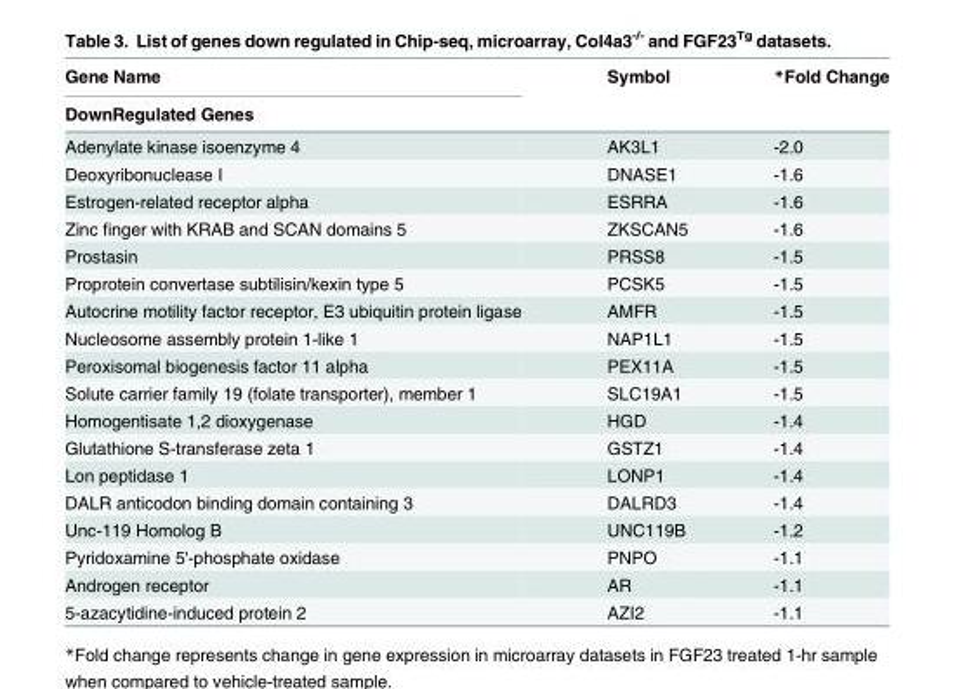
<table><thead><tr><td rowspan="2">Gene Name DownRegulated Genes</td><td rowspan="2">Symbol</td><td rowspan="2">*Fold Change</td></tr><tr></tr></thead><tbody><tr><td>Adenylate kinase isoenzyme 4</td><td>AK3L1</td><td>-2.0</td></tr><tr><td>Deoxyribonuclease I</td><td>DNASE1</td><td>-1.6</td></tr><tr><td>Estrogen-related receptor alpha</td><td>ESRRA</td><td>-1.6</td></tr><tr><td>Zinc finger with KRAB and SCAN domains 5</td><td>ZKSCAN5</td><td>-1.6</td></tr><tr><td>Prostasin</td><td>PRSS8</td><td>-1.5</td></tr><tr><td>Proprotein convertase subtilisin/kexin type 5</td><td>PCSK5</td><td>-1.5</td></tr><tr><td>Autocrine motility factor receptor, E3 ubiquitin protein ligase</td><td>AMFR</td><td>-1.5</td></tr><tr><td>Nucleosome assembly protein 1-like 1</td><td>NAP1L1</td><td>-1.5</td></tr><tr><td>Peroxisomal biogenesis factor 11 alpha</td><td>PEX11A</td><td>-1.5</td></tr><tr><td>Solute carrier family 19 (folate transporter), member 1</td><td>SLC19A1</td><td>-1.5</td></tr><tr><td>Homogentisate 1,2 dioxygenase</td><td>HGD</td><td>-1.4</td></tr><tr><td>Glutathione S-transferase zeta 1</td><td>GSTZ1</td><td>-1.4</td></tr><tr><td>Lon peptidase 1</td><td>LONP1</td><td>-1.4</td></tr><tr><td>DALR anticodon binding domain containing 3</td><td>DALRD3</td><td>-1.4</td></tr><tr><td>Unc-119 Homolog B</td><td>UNC119B</td><td>-1.2</td></tr><tr><td>Pyridoxamine 5&#x27;-phosphate oxidase</td><td>PNPO</td><td>-1.1</td></tr><tr><td>Androgen receptor</td><td>AR</td><td>-1.1</td></tr><tr><td>5-azacytidine-induced protein 2</td><td>AZI2</td><td>-1.1</td></tr></tbody></table>